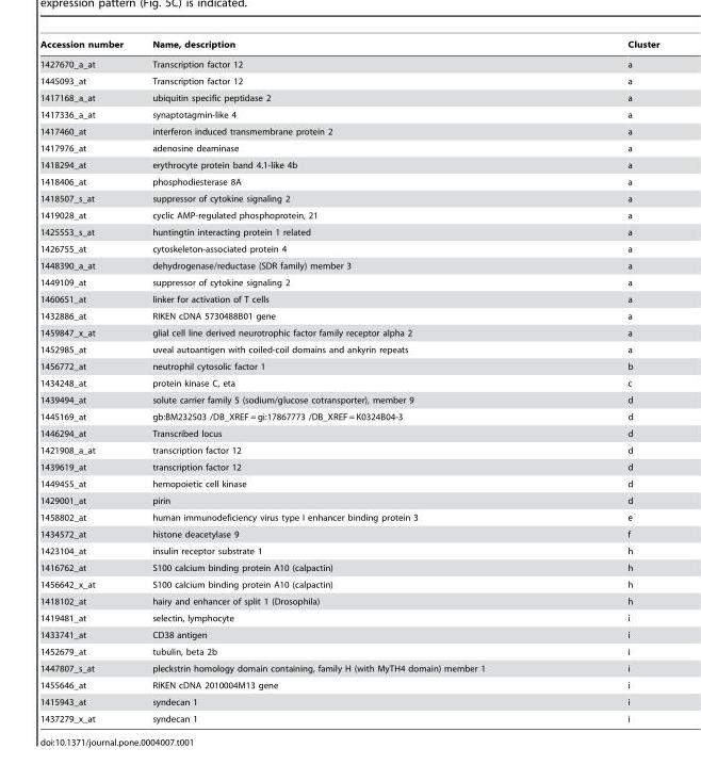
<table><thead><tr><td>Accession number</td><td>Name, description</td><td>Cluster</td></tr></thead><tbody><tr><td>1427670_a_at</td><td>Transcription factor 12</td><td>a</td></tr><tr><td>1445093_at</td><td>Transcription factor 12</td><td>a</td></tr><tr><td>1417168_a_at</td><td>ubiquitin specific peptidase 2</td><td>a</td></tr><tr><td>1417336_a_at</td><td>synaptotagmin-like 4</td><td>a</td></tr><tr><td>1417460_at</td><td>interferon induced transmembrane protein 2</td><td>a</td></tr><tr><td>1417976_at</td><td>adenosine deaminase</td><td>a</td></tr><tr><td>1418294_at</td><td>erythrocyte protein band 4.1-like 4b</td><td>a</td></tr><tr><td>1418406_at</td><td>phosphodiesterase 8A</td><td>a</td></tr><tr><td>1418507_s_at</td><td>suppressor of cytokine signaling 2</td><td>a</td></tr><tr><td>1419028_at</td><td>cyclic AMP-regulated phosphoprotein, 21</td><td>a</td></tr><tr><td>1425553_s_at</td><td>huntingtin interacting protein 1 related</td><td>a</td></tr><tr><td>1426755_at</td><td>cytoskeleton-associated protein 4</td><td>a</td></tr><tr><td>1448390_a_at</td><td>dehydrogenase/reductase (SDR family) member 3</td><td>a</td></tr><tr><td>1449109_at</td><td>suppressor of cytokine signaling 2</td><td>a</td></tr><tr><td>1460651_at</td><td>linker for activation of T cells</td><td>a</td></tr><tr><td>1432886_at</td><td>RIKEN cDNA 5730488B01 gene</td><td>a</td></tr><tr><td>1459847_x_at</td><td>glial cell line derived neurotrophic factor family receptor alpha 2</td><td>a</td></tr><tr><td>1452985_at</td><td>uveal autoantigen with coiled-coil domains and ankyrin repeats</td><td>a</td></tr><tr><td>1456772_at</td><td>neutrophil cytosolic factor 1</td><td>b</td></tr><tr><td>1434248_at</td><td>protein kinase C, eta</td><td>c</td></tr><tr><td>1439494_at</td><td>solute carrier family 5 (sodium/glucose cotransporter), member 9</td><td>d</td></tr><tr><td>1445169_at</td><td>gb:BM232503 /DB_XREF = gi:17867773 /DB_XREF = K0324B04-3</td><td>d</td></tr><tr><td>1446294_at</td><td>Transcribed locus</td><td>d</td></tr><tr><td>1421908_a_at</td><td>transcription factor 12</td><td>d</td></tr><tr><td>1439619_at</td><td>transcription factor 12</td><td>d</td></tr><tr><td>1449455_at</td><td>hemopoietic cell kinase</td><td>d</td></tr><tr><td>1429001_at</td><td>pirin</td><td>d</td></tr><tr><td>1458802_at</td><td>human immunodeficiency virus type I enhancer binding protein 3</td><td>e</td></tr><tr><td>1434572_at</td><td>histone deacetylase 9</td><td>f</td></tr><tr><td>1423104_at</td><td>insulin receptor substrate 1</td><td>h</td></tr><tr><td>1416762_at</td><td>S100 calcium binding protein A10 (calpactin)</td><td>h</td></tr><tr><td>1456642_x_at</td><td>S100 calcium binding protein A10 (calpactin)</td><td>h</td></tr><tr><td>1418102_at</td><td>hairy and enhancer of split 1 (Drosophila)</td><td>h</td></tr><tr><td>1419481_at</td><td>selectin, lymphocyte</td><td>i</td></tr><tr><td>1433741_at</td><td>CD38 antigen</td><td>i</td></tr><tr><td>1452679_at</td><td>tubulin, beta 2b</td><td>i</td></tr><tr><td>1447807_s_at</td><td>pleckstrin homology domain containing, family H (with MyTH4 domain) member 1</td><td>i</td></tr><tr><td>1455646_at</td><td>RIKEN cDNA 2010004M13 gene</td><td>i</td></tr><tr><td>1415943_at</td><td>syndecan 1</td><td>i</td></tr><tr><td>1437279_x_at</td><td>syndecan 1</td><td>i</td></tr></tbody></table>